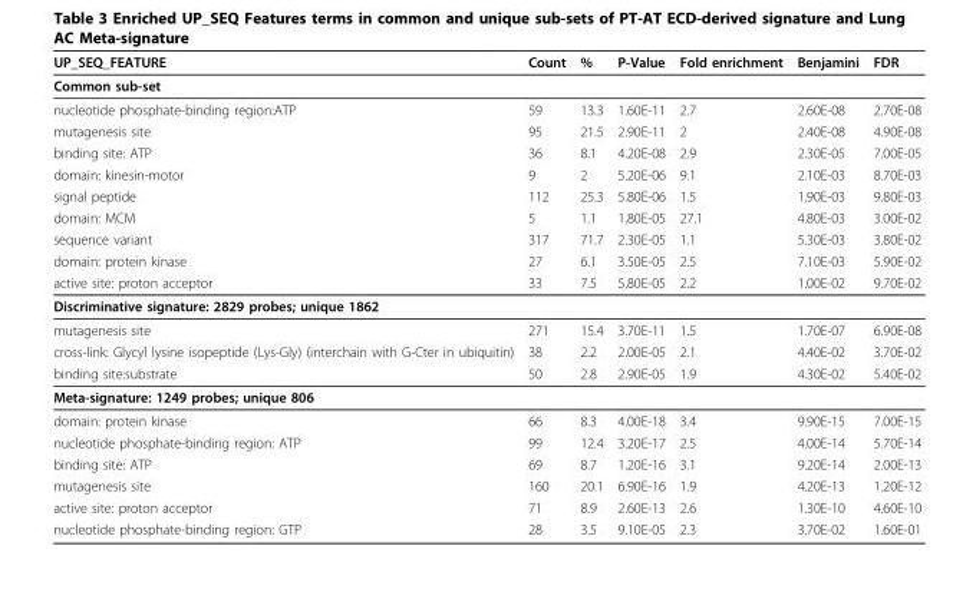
<table><thead><tr><td>UP_SEQ_FEATURE</td><td>Count</td><td>%</td><td>P-Value</td><td>Fold enrichment</td><td>Benjamini</td><td>FDR</td></tr></thead><tbody><tr><td colspan="7">Common sub-set</td></tr><tr><td>nucleotide phosphate-binding region:ATP</td><td>59</td><td>13.3</td><td>1.60E-11</td><td>2.7</td><td>2.60E-08</td><td>2.70E-08</td></tr><tr><td>mutagenesis site</td><td>95</td><td>21.5</td><td>2.90E-11</td><td>2</td><td>2.40E-08</td><td>4.90E-08</td></tr><tr><td>binding site: ATP</td><td>36</td><td>8.1</td><td>4.20E-08</td><td>2.9</td><td>2.30E-05</td><td>7.00E-05</td></tr><tr><td>domain: kinesin-motor</td><td>9</td><td>2</td><td>5.20E-06</td><td>9.1</td><td>2.10E-03</td><td>8.70E-03</td></tr><tr><td>signal peptide</td><td>112</td><td>25.3</td><td>5.80E-06</td><td>1.5</td><td>1.90E-03</td><td>9.80E-03</td></tr><tr><td>domain: MCM</td><td>5</td><td>1.1</td><td>1.80E-05</td><td>27.1</td><td>4.80E-03</td><td>3.00E-02</td></tr><tr><td>sequence variant</td><td>317</td><td>71.7</td><td>2.30E-05</td><td>1.1</td><td>5.30E-03</td><td>3.80E-02</td></tr><tr><td>domain: protein kinase</td><td>27</td><td>6.1</td><td>3.50E-05</td><td>2.5</td><td>7.10E-03</td><td>5.90E-02</td></tr><tr><td>active site: proton acceptor</td><td>33</td><td>7.5</td><td>5.80E-05</td><td>2.2</td><td>1.00E-02</td><td>9.70E-02</td></tr><tr><td colspan="7">Discriminative signature: 2829 probes; unique 1862</td></tr><tr><td>mutagenesis site</td><td>271</td><td>15.4</td><td>3.70E-11</td><td>1.5</td><td>1.70E-07</td><td>6.90E-08</td></tr><tr><td>cross-link: Glycyl lysine isopeptide (Lys-Gly) (interchain with G-Cter in ubiquitin)</td><td>38</td><td>2.2</td><td>2.00E-05</td><td>2.1</td><td>4.40E-02</td><td>3.70E-02</td></tr><tr><td>binding site:substrate</td><td>50</td><td>2.8</td><td>2.90E-05</td><td>1.9</td><td>4.30E-02</td><td>5.40E-02</td></tr><tr><td colspan="7">Meta-signature: 1249 probes; unique 806</td></tr><tr><td>domain: protein kinase</td><td>66</td><td>8.3</td><td>4.00E-18</td><td>3.4</td><td>9.90E-15</td><td>7.00E-15</td></tr><tr><td>nucleotide phosphate-binding region: ATP</td><td>99</td><td>12.4</td><td>3.20E-17</td><td>2.5</td><td>4.00E-14</td><td>5.70E-14</td></tr><tr><td>binding site: ATP</td><td>69</td><td>8.7</td><td>1.20E-16</td><td>3.1</td><td>9.20E-14</td><td>2.00E-13</td></tr><tr><td>mutagenesis site</td><td>160</td><td>20.1</td><td>6.90E-16</td><td>1.9</td><td>4.20E-13</td><td>1.20E-12</td></tr><tr><td>active site: proton acceptor</td><td>71</td><td>8.9</td><td>2.60E-13</td><td>2.6</td><td>1.30E-10</td><td>4.60E-10</td></tr><tr><td>nucleotide phosphate-binding region: GTP</td><td>28</td><td>3.5</td><td>9.10E-05</td><td>2.3</td><td>3.70E-02</td><td>1.60E-01</td></tr></tbody></table>